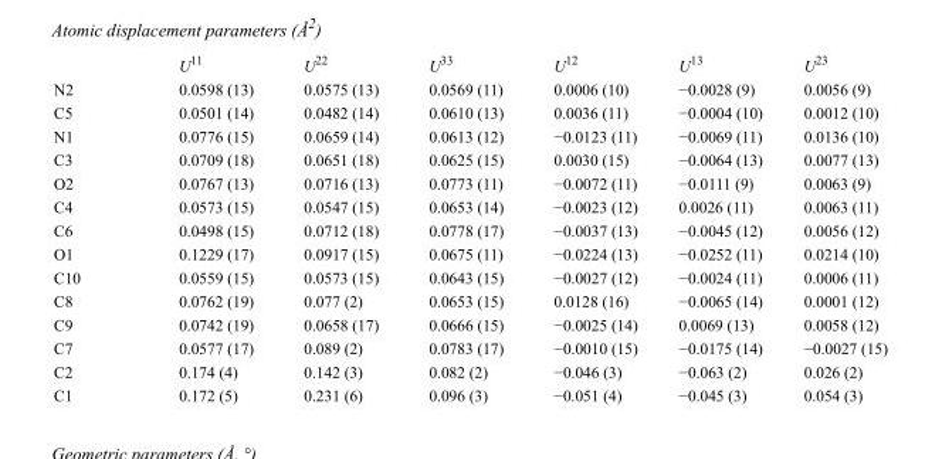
<table><thead><tr><td></td><td>U<sup>11</sup></td><td>U<sup>22</sup></td><td>U<sup>33</sup></td><td>U<sup>12</sup></td><td>U<sup>13</sup></td><td>U<sup>23</sup></td></tr></thead><tbody><tr><td>N2</td><td>0.0598 (13)</td><td>0.0575 (13)</td><td>0.0569 (11)</td><td>0.0006 (10)</td><td>−0.0028 (9)</td><td>0.0056 (9)</td></tr><tr><td>C5</td><td>0.0501 (14)</td><td>0.0482 (14)</td><td>0.0610 (13)</td><td>0.0036 (11)</td><td>−0.0004 (10)</td><td>0.0012 (10)</td></tr><tr><td>N1</td><td>0.0776 (15)</td><td>0.0659 (14)</td><td>0.0613 (12)</td><td>−0.0123 (11)</td><td>−0.0069 (11)</td><td>0.0136 (10)</td></tr><tr><td>C3</td><td>0.0709 (18)</td><td>0.0651 (18)</td><td>0.0625 (15)</td><td>0.0030 (15)</td><td>−0.0064 (13)</td><td>0.0077 (13)</td></tr><tr><td>O2</td><td>0.0767 (13)</td><td>0.0716 (13)</td><td>0.0773 (11)</td><td>−0.0072 (11)</td><td>−0.0111 (9)</td><td>0.0063 (9)</td></tr><tr><td>C4</td><td>0.0573 (15)</td><td>0.0547 (15)</td><td>0.0653 (14)</td><td>−0.0023 (12)</td><td>0.0026 (11)</td><td>0.0063 (11)</td></tr><tr><td>C6</td><td>0.0498 (15)</td><td>0.0712 (18)</td><td>0.0778 (17)</td><td>−0.0037 (13)</td><td>−0.0045 (12)</td><td>0.0056 (12)</td></tr><tr><td>O1</td><td>0.1229 (17)</td><td>0.0917 (15)</td><td>0.0675 (11)</td><td>−0.0224 (13)</td><td>−0.0252 (11)</td><td>0.0214 (10)</td></tr><tr><td>C10</td><td>0.0559 (15)</td><td>0.0573 (15)</td><td>0.0643 (15)</td><td>−0.0027 (12)</td><td>−0.0024 (11)</td><td>0.0006 (11)</td></tr><tr><td>C8</td><td>0.0762 (19)</td><td>0.077 (2)</td><td>0.0653 (15)</td><td>0.0128 (16)</td><td>−0.0065 (14)</td><td>0.0001 (12)</td></tr><tr><td>C9</td><td>0.0742 (19)</td><td>0.0658 (17)</td><td>0.0666 (15)</td><td>−0.0025 (14)</td><td>0.0069 (13)</td><td>0.0058 (12)</td></tr><tr><td>C7</td><td>0.0577 (17)</td><td>0.089 (2)</td><td>0.0783 (17)</td><td>−0.0010 (15)</td><td>−0.0175 (14)</td><td>−0.0027 (15)</td></tr><tr><td>C2</td><td>0.174 (4)</td><td>0.142 (3)</td><td>0.082 (2)</td><td>−0.046 (3)</td><td>−0.063 (2)</td><td>0.026 (2)</td></tr><tr><td>C1</td><td>0.172 (5)</td><td>0.231 (6)</td><td>0.096 (3)</td><td>−0.051 (4)</td><td>−0.045 (3)</td><td>0.054 (3)</td></tr></tbody></table>